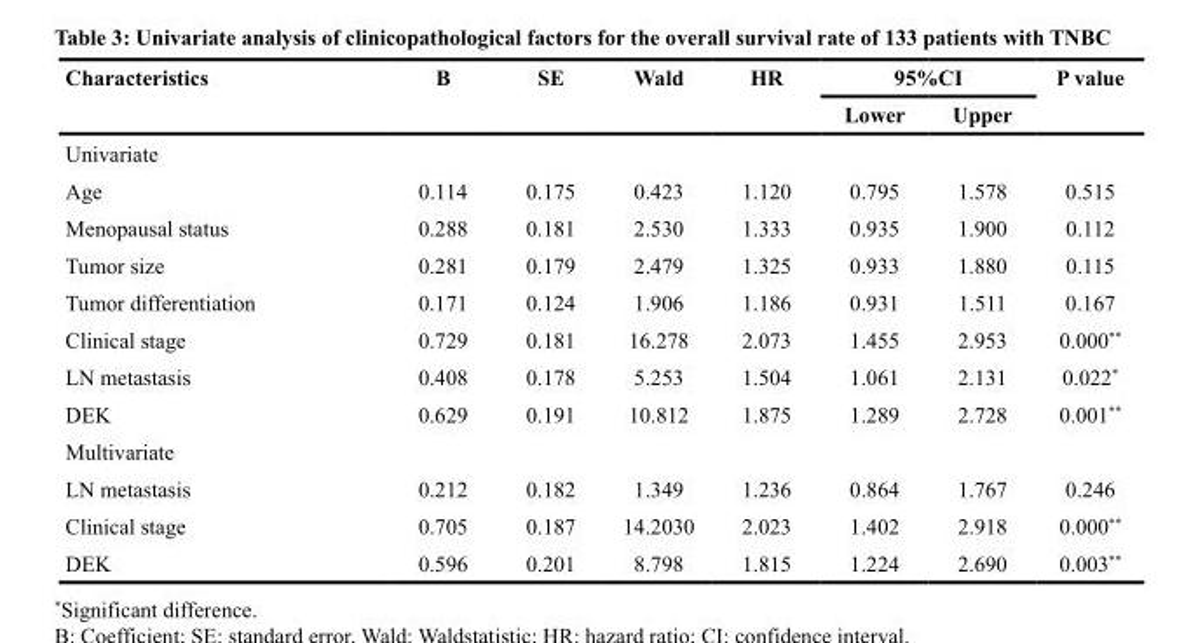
<table><thead><tr><td rowspan="2">Characteristics</td><td rowspan="2">B</td><td rowspan="2">SE</td><td rowspan="2">Wald</td><td rowspan="2">HR</td><td colspan="2">95%CI</td><td rowspan="2">P value</td></tr><tr><td>Lower</td><td>Upper</td></tr></thead><tbody><tr><td colspan="8">Univariate</td></tr><tr><td>Age</td><td>0.114</td><td>0.175</td><td>0.423</td><td>1.120</td><td>0.795</td><td>1.578</td><td>0.515</td></tr><tr><td>Menopausal status</td><td>0.288</td><td>0.181</td><td>2.530</td><td>1.333</td><td>0.935</td><td>1.900</td><td>0.112</td></tr><tr><td>Tumor size</td><td>0.281</td><td>0.179</td><td>2.479</td><td>1.325</td><td>0.933</td><td>1.880</td><td>0.115</td></tr><tr><td>Tumor differentiation</td><td>0.171</td><td>0.124</td><td>1.906</td><td>1.186</td><td>0.931</td><td>1.511</td><td>0.167</td></tr><tr><td>Clinical stage</td><td>0.729</td><td>0.181</td><td>16.278</td><td>2.073</td><td>1.455</td><td>2.953</td><td>0.000**</td></tr><tr><td>LN metastasis</td><td>0.408</td><td>0.178</td><td>5.253</td><td>1.504</td><td>1.061</td><td>2.131</td><td>0.022*</td></tr><tr><td>DEK</td><td>0.629</td><td>0.191</td><td>10.812</td><td>1.875</td><td>1.289</td><td>2.728</td><td>0.001**</td></tr><tr><td colspan="8">Multivariate</td></tr><tr><td>LN metastasis</td><td>0.212</td><td>0.182</td><td>1.349</td><td>1.236</td><td>0.864</td><td>1.767</td><td>0.246</td></tr><tr><td>Clinical stage</td><td>0.705</td><td>0.187</td><td>14.2030</td><td>2.023</td><td>1.402</td><td>2.918</td><td>0.000**</td></tr><tr><td>DEK</td><td>0.596</td><td>0.201</td><td>8.798</td><td>1.815</td><td>1.224</td><td>2.690</td><td>0.003**</td></tr></tbody></table>